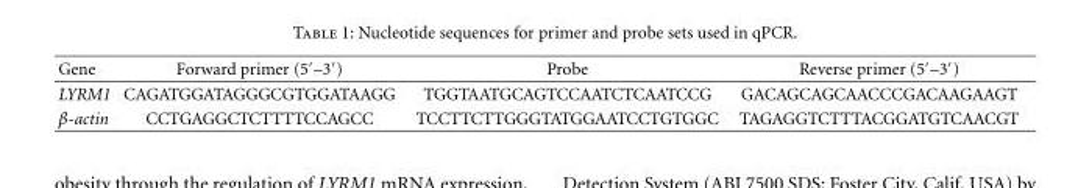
<table><thead><tr><td>Gene</td><td>Forward primer (5′–3′)</td><td>Probe</td><td>Reverse primer (5′–3′)</td></tr></thead><tbody><tr><td>LYRM1</td><td>CAGATGGATAGGGCGTGGATAAGG</td><td>TGGTAATGCAGTCCAATCTCAATCCG</td><td>GACAGCAGCAACCCGACAAGAAGT</td></tr><tr><td>β-actin</td><td>CCTGAGGCTCTTTTCCAGCC</td><td>TCCTTCTTGGGTATGGAATCCTGTGGC</td><td>TAGAGGTCTTTACGGATGTCAACGT</td></tr></tbody></table>